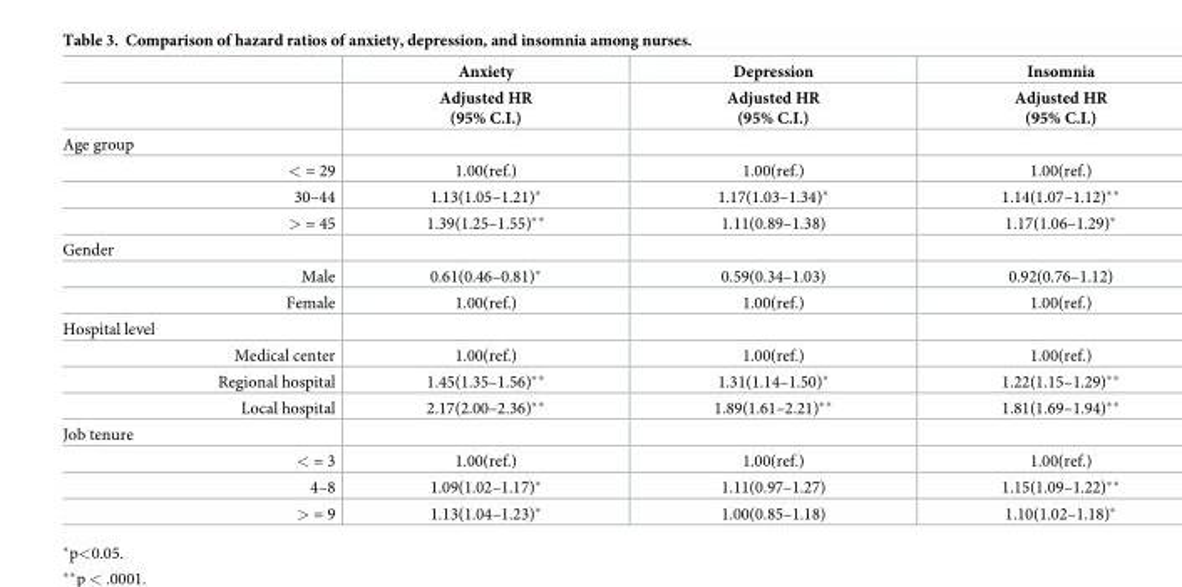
<table><thead><tr><td rowspan="2"></td><td rowspan="2">Anxiety Adjusted HR (95% C.I.)</td><td rowspan="2">Depression Adjusted HR (95% C.I.)</td><td rowspan="2">Insomnia Adjusted HR (95% C.I.)</td></tr><tr></tr></thead><tbody><tr><td colspan="4">Age group</td></tr><tr><td>&lt; = 29</td><td>1.00(ref.)</td><td>1.00(ref.)</td><td>1.00(ref.)</td></tr><tr><td>30–44</td><td>1.13(1.05–1.21)*</td><td>1.17(1.03–1.34)*</td><td>1.14(1.07–1.12)**</td></tr><tr><td>&gt; = 45</td><td>1.39(1.25–1.55)**</td><td>1.11(0.89–1.38)</td><td>1.17(1.06–1.29)*</td></tr><tr><td colspan="4">Gender</td></tr><tr><td>Male</td><td>0.61(0.46–0.81)*</td><td>0.59(0.34–1.03)</td><td>0.92(0.76–1.12)</td></tr><tr><td>Female</td><td>1.00(ref.)</td><td>1.00(ref.)</td><td>1.00(ref.)</td></tr><tr><td colspan="4">Hospital level</td></tr><tr><td>Medical center</td><td>1.00(ref.)</td><td>1.00(ref.)</td><td>1.00(ref.)</td></tr><tr><td>Regional hospital</td><td>1.45(1.35–1.56)**</td><td>1.31(1.14–1.50)*</td><td>1.22(1.15–1.29)**</td></tr><tr><td>Local hospital</td><td>2.17(2.00–2.36)**</td><td>1.89(1.61–2.21)**</td><td>1.81(1.69–1.94)**</td></tr><tr><td colspan="4">Job tenure</td></tr><tr><td>&lt; = 3</td><td>1.00(ref.)</td><td>1.00(ref.)</td><td>1.00(ref.)</td></tr><tr><td>4–8</td><td>1.09(1.02–1.17)*</td><td>1.11(0.97–1.27)</td><td>1.15(1.09–1.22)**</td></tr><tr><td>&gt; = 9</td><td>1.13(1.04–1.23)*</td><td>1.00(0.85–1.18)</td><td>1.10(1.02–1.18)*</td></tr></tbody></table>